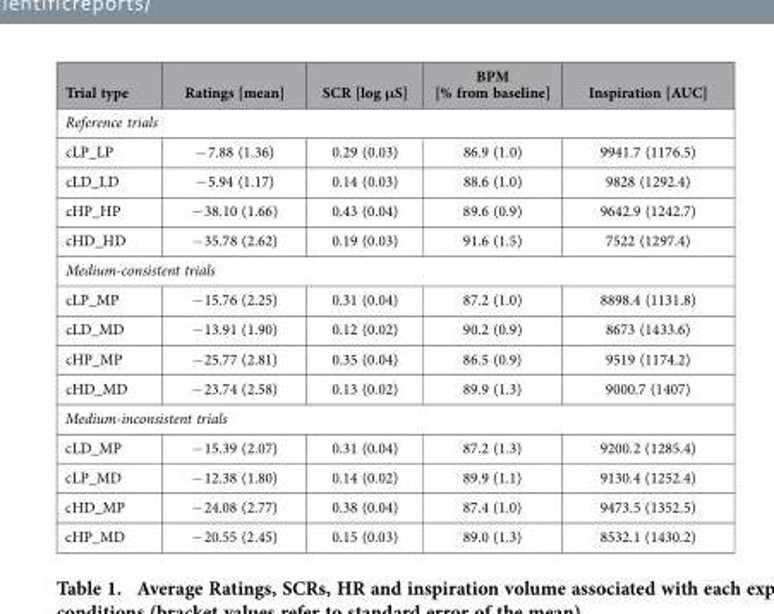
<table><thead><tr><td>Trial type</td><td>Ratings [mean]</td><td>SCR [log μS]</td><td>BPM [% from baseline]</td><td>Inspiration [AUC]</td></tr></thead><tbody><tr><td colspan="5">Reference trials</td></tr><tr><td>cLP_LP</td><td>− 7.88 (1.36)</td><td>0.29 (0.03)</td><td>86.9 (1.0)</td><td>9941.7 (1176.5)</td></tr><tr><td>cLD_LD</td><td>− 5.94 (1.17)</td><td>0.14 (0.03)</td><td>88.6 (1.0)</td><td>9828 (1292.4)</td></tr><tr><td>cHP_HP</td><td>− 38.10 (1.66)</td><td>0.43 (0.04)</td><td>89.6 (0.9)</td><td>9642.9 (1242.7)</td></tr><tr><td>cHD_HD</td><td>− 35.78 (2.62)</td><td>0.19 (0.03)</td><td>91.6 (1.5)</td><td>7522 (1297.4)</td></tr><tr><td colspan="5">Medium-consistent trials</td></tr><tr><td>cLP_MP</td><td>− 15.76 (2.25)</td><td>0.31 (0.04)</td><td>87.2 (1.0)</td><td>8898.4 (1131.8)</td></tr><tr><td>cLD_MD</td><td>− 13.91 (1.90)</td><td>0.12 (0.02)</td><td>90.2 (0.9)</td><td>8673 (1433.6)</td></tr><tr><td>cHP_MP</td><td>− 25.77 (2.81)</td><td>0.35 (0.04)</td><td>86.5 (0.9)</td><td>9519 (1174.2)</td></tr><tr><td>cHD_MD</td><td>− 23.74 (2.58)</td><td>0.13 (0.02)</td><td>89.9 (1.3)</td><td>9000.7 (1407)</td></tr><tr><td colspan="5">Medium-inconsistent trials</td></tr><tr><td>cLD_MP</td><td>− 15.39 (2.07)</td><td>0.31 (0.04)</td><td>87.2 (1.3)</td><td>9200.2 (1285.4)</td></tr><tr><td>cLP_MD</td><td>− 12.38 (1.80)</td><td>0.14 (0.02)</td><td>89.9 (1.1)</td><td>9130.4 (1252.4)</td></tr><tr><td>cHD_MP</td><td>− 24.08 (2.77)</td><td>0.38 (0.04)</td><td>87.4 (1.0)</td><td>9473.5 (1352.5)</td></tr><tr><td>cHP_MD</td><td>− 20.55 (2.45)</td><td>0.15 (0.03)</td><td>89.0 (1.3)</td><td>8532.1 (1430.2)</td></tr></tbody></table>